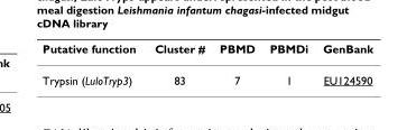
<table><thead><tr><td>Putative function</td><td>Cluster #</td><td>PBMD</td><td>PBMDi</td><td>GenBank</td></tr></thead><tbody><tr><td>Trypsin (LuloTryp3)</td><td>83</td><td>7</td><td>1</td><td>EU124590</td></tr></tbody></table>